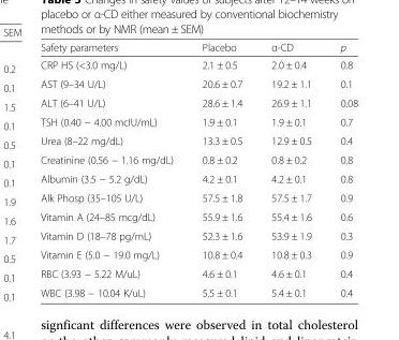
<table><thead><tr><td>Safety parameters</td><td>Placebo</td><td>α-CD</td><td>p</td></tr></thead><tbody><tr><td>CRP HS (&lt;3.0 mg/L)</td><td>2.1 ± 0.5</td><td>2.0 ± 0.4</td><td>0.8</td></tr><tr><td>AST (9–34 U/L)</td><td>20.6 ± 0.7</td><td>19.2 ± 1.1</td><td>0.1</td></tr><tr><td>ALT (6–41 U/L)</td><td>28.6 ± 1.4</td><td>26.9 ± 1.1</td><td>0.08</td></tr><tr><td>TSH (0.40 − 4.00 mcIU/mL)</td><td>1.9 ± 0.1</td><td>1.9 ± 0.1</td><td>0.7</td></tr><tr><td>Urea (8–22 mg/dL)</td><td>13.3 ± 0.5</td><td>12.9 ± 0.5</td><td>0.4</td></tr><tr><td>Creatinine (0.56 − 1.16 mg/dL)</td><td>0.8 ± 0.2</td><td>0.8 ± 0.2</td><td>0.8</td></tr><tr><td>Albumin (3.5 − 5.2 g/dL)</td><td>4.2 ± 0.1</td><td>4.2 ± 0.1</td><td>0.8</td></tr><tr><td>Alk Phosp (35–105 U/L)</td><td>57.5 ± 1.8</td><td>57.5 ± 1.7</td><td>0.9</td></tr><tr><td>Vitamin A (24–85 mcg/dL)</td><td>55.9 ± 1.6</td><td>55.4 ± 1.6</td><td>0.6</td></tr><tr><td>Vitamin D (18–78 pg/mL)</td><td>52.3 ± 1.6</td><td>53.9 ± 1.9</td><td>0.3</td></tr><tr><td>Vitamin E (5.0 − 19.0 mg/L)</td><td>10.8 ± 0.4</td><td>10.8 ± 0.3</td><td>0.9</td></tr><tr><td>RBC (3.93 − 5.22 M/uL)</td><td>4.6 ± 0.1</td><td>4.6 ± 0.1</td><td>0.4</td></tr><tr><td>WBC (3.98 − 10.04 K/uL)</td><td>5.5 ± 0.1</td><td>5.4 ± 0.1</td><td>0.4</td></tr></tbody></table>